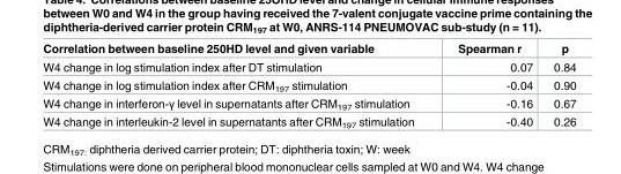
<table><thead><tr><td>Correlation between baseline 250HD level and given variable</td><td>Spearman r</td><td>p</td></tr></thead><tbody><tr><td>W4 change in log stimulation index after DT stimulation</td><td>0.07</td><td>0.84</td></tr><tr><td>W4 change in log stimulation index after CRM<sub>197</sub> stimulation</td><td>-0.04</td><td>0.90</td></tr><tr><td>W4 change in interferon-γ level in supernatants after CRM<sub>197</sub> stimulation</td><td>-0.16</td><td>0.67</td></tr><tr><td>W4 change in interleukin-2 level in supernatants after CRM<sub>197</sub> stimulation</td><td>-0.40</td><td>0.26</td></tr></tbody></table>